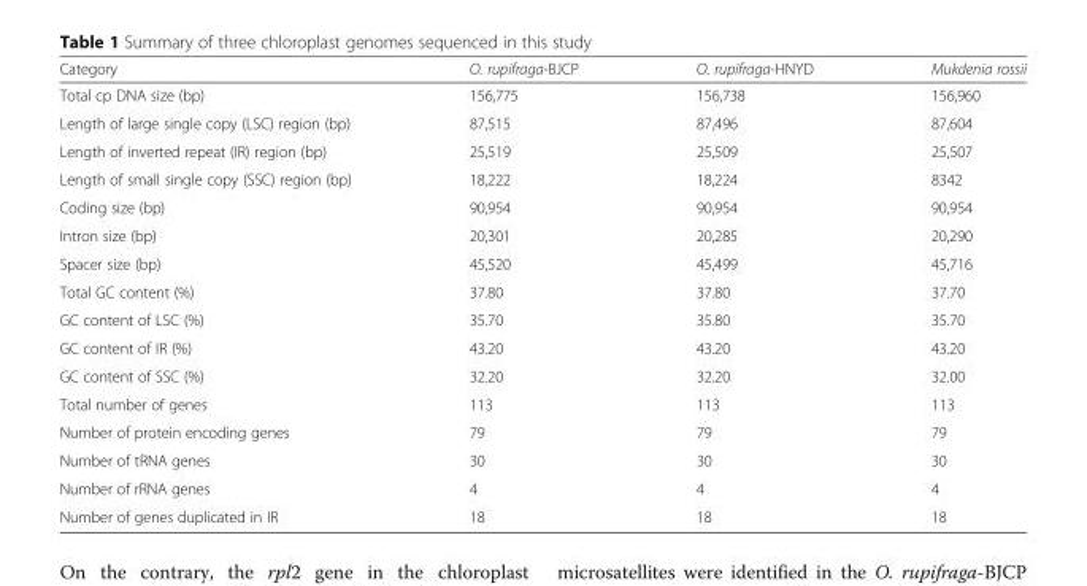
<table><thead><tr><td>Category</td><td>O. rupifraga-BJCP</td><td>O. rupifraga-HNYD</td><td>Mukdenia rossii</td></tr></thead><tbody><tr><td>Total cp DNA size (bp)</td><td>156,775</td><td>156,738</td><td>156,960</td></tr><tr><td>Length of large single copy (LSC) region (bp)</td><td>87,515</td><td>87,496</td><td>87,604</td></tr><tr><td>Length of inverted repeat (IR) region (bp)</td><td>25,519</td><td>25,509</td><td>25,507</td></tr><tr><td>Length of small single copy (SSC) region (bp)</td><td>18,222</td><td>18,224</td><td>8342</td></tr><tr><td>Coding size (bp)</td><td>90,954</td><td>90,954</td><td>90,954</td></tr><tr><td>Intron size (bp)</td><td>20,301</td><td>20,285</td><td>20,290</td></tr><tr><td>Spacer size (bp)</td><td>45,520</td><td>45,499</td><td>45,716</td></tr><tr><td>Total GC content (%)</td><td>37.80</td><td>37.80</td><td>37.70</td></tr><tr><td>GC content of LSC (%)</td><td>35.70</td><td>35.80</td><td>35.70</td></tr><tr><td>GC content of IR (%)</td><td>43.20</td><td>43.20</td><td>43.20</td></tr><tr><td>GC content of SSC (%)</td><td>32.20</td><td>32.20</td><td>32.00</td></tr><tr><td>Total number of genes</td><td>113</td><td>113</td><td>113</td></tr><tr><td>Number of protein encoding genes</td><td>79</td><td>79</td><td>79</td></tr><tr><td>Number of tRNA genes</td><td>30</td><td>30</td><td>30</td></tr><tr><td>Number of rRNA genes</td><td>4</td><td>4</td><td>4</td></tr><tr><td>Number of genes duplicated in IR</td><td>18</td><td>18</td><td>18</td></tr></tbody></table>